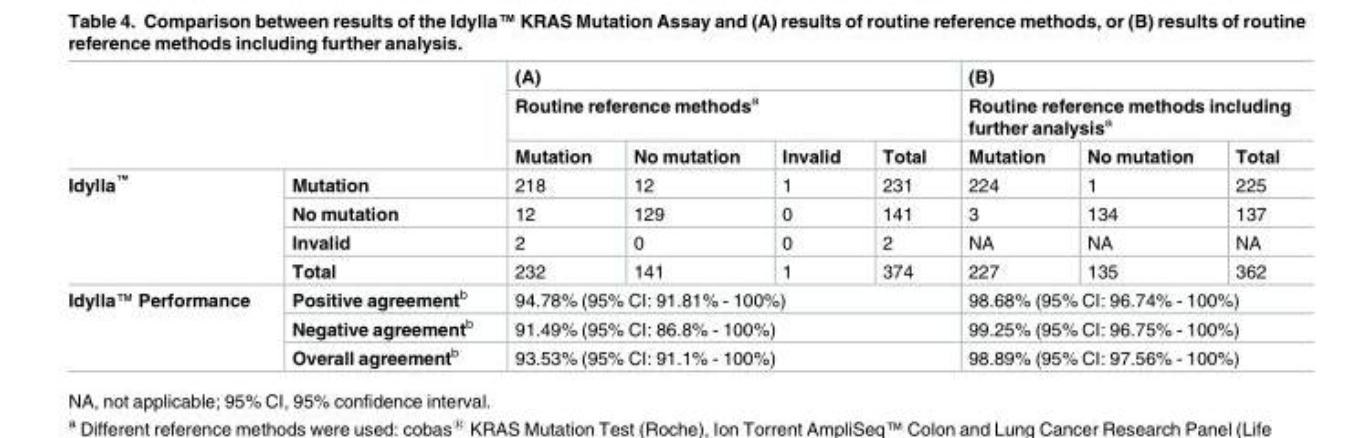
<table><thead><tr><td rowspan="3"></td><td rowspan="3"></td><td rowspan="2" colspan="4">(A) Routine reference methods<sup>a</sup></td><td rowspan="2" colspan="3">(B) Routine reference methods including further analysis<sup>a</sup></td></tr><tr></tr><tr><td>Mutation</td><td>No mutation</td><td>Invalid</td><td>Total</td><td>Mutation</td><td>No mutation</td><td>Total</td></tr></thead><tbody><tr><td rowspan="4">Idylla<sup>™</sup></td><td>Mutation</td><td>218</td><td>12</td><td>1</td><td>231</td><td>224</td><td>1</td><td>225</td></tr><tr><td>No mutation</td><td>12</td><td>129</td><td>0</td><td>141</td><td>3</td><td>134</td><td>137</td></tr><tr><td>Invalid</td><td>2</td><td>0</td><td>0</td><td>2</td><td>NA</td><td>NA</td><td>NA</td></tr><tr><td>Total</td><td>232</td><td>141</td><td>1</td><td>374</td><td>227</td><td>135</td><td>362</td></tr><tr><td rowspan="3">Idylla<sup>™</sup> Performance</td><td>Positive agreement<sup>b</sup></td><td colspan="4">94.78% (95% CI: 91.81% - 100%)</td><td colspan="3">98.68% (95% CI: 96.74% - 100%)</td></tr><tr><td>Negative agreement<sup>b</sup></td><td colspan="4">91.49% (95% CI: 86.8% - 100%)</td><td colspan="3">99.25% (95% CI: 96.75% - 100%)</td></tr><tr><td>Overall agreement<sup>b</sup></td><td colspan="4">93.53% (95% CI: 91.1% - 100%)</td><td colspan="3">98.89% (95% CI: 97.56% - 100%)</td></tr></tbody></table>